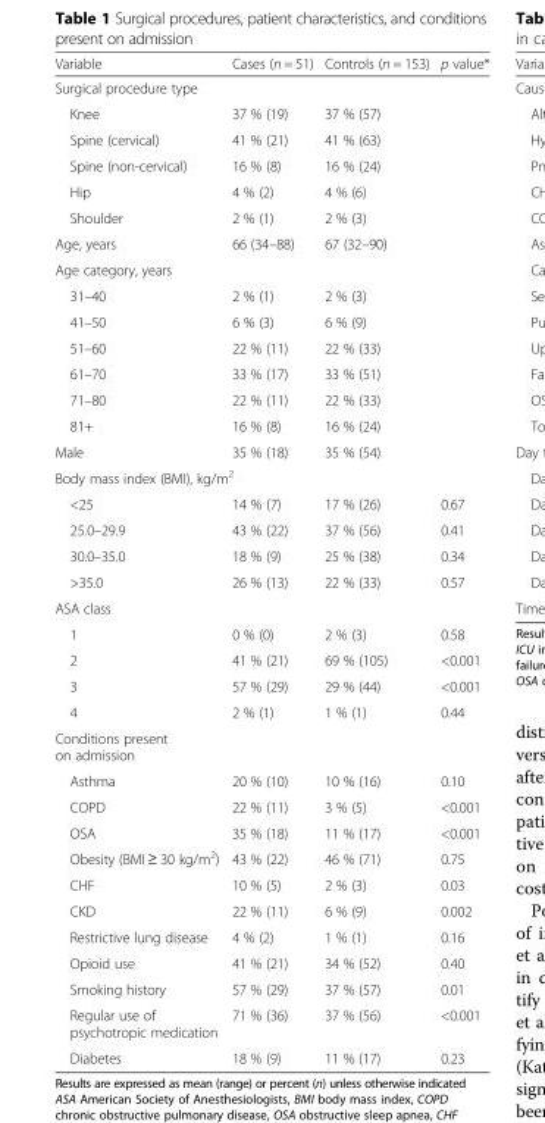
<table><thead><tr><td>Variable</td><td>Cases (n = 51)</td><td>Controls (n = 153)</td><td>p value*</td></tr></thead><tbody><tr><td colspan="4">Surgical procedure type</td></tr><tr><td>Knee</td><td>37 % (19)</td><td>37 % (57)</td><td></td></tr><tr><td>Spine (cervical)</td><td>41 % (21)</td><td>41 % (63)</td><td></td></tr><tr><td>Spine (non-cervical)</td><td>16 % (8)</td><td>16 % (24)</td><td></td></tr><tr><td>Hip</td><td>4 % (2)</td><td>4 % (6)</td><td></td></tr><tr><td>Shoulder</td><td>2 % (1)</td><td>2 % (3)</td><td></td></tr><tr><td>Age, years</td><td>66 (34–88)</td><td>67 (32–90)</td><td></td></tr><tr><td colspan="4">Age category, years</td></tr><tr><td>31–40</td><td>2 % (1)</td><td>2 % (3)</td><td></td></tr><tr><td>41–50</td><td>6 % (3)</td><td>6 % (9)</td><td></td></tr><tr><td>51–60</td><td>22 % (11)</td><td>22 % (33)</td><td></td></tr><tr><td>61–70</td><td>33 % (17)</td><td>33 % (51)</td><td></td></tr><tr><td>71–80</td><td>22 % (11)</td><td>22 % (33)</td><td></td></tr><tr><td>81+</td><td>16 % (8)</td><td>16 % (24)</td><td></td></tr><tr><td>Male</td><td>35 % (18)</td><td>35 % (54)</td><td></td></tr><tr><td colspan="4">Body mass index (BMI), kg/m<sup>2</sup></td></tr><tr><td>&lt;25</td><td>14 % (7)</td><td>17 % (26)</td><td>0.67</td></tr><tr><td>25.0–29.9</td><td>43 % (22)</td><td>37 % (56)</td><td>0.41</td></tr><tr><td>30.0–35.0</td><td>18 % (9)</td><td>25 % (38)</td><td>0.34</td></tr><tr><td>&gt;35.0</td><td>26 % (13)</td><td>22 % (33)</td><td>0.57</td></tr><tr><td colspan="4">ASA class</td></tr><tr><td>1</td><td>0 % (0)</td><td>2 % (3)</td><td>0.58</td></tr><tr><td>2</td><td>41 % (21)</td><td>69 % (105)</td><td>&lt;0.001</td></tr><tr><td>3</td><td>57 % (29)</td><td>29 % (44)</td><td>&lt;0.001</td></tr><tr><td>4</td><td>2 % (1)</td><td>1 % (1)</td><td>0.44</td></tr><tr><td colspan="4">Conditions present on admission</td></tr><tr><td>Asthma</td><td>20 % (10)</td><td>10 % (16)</td><td>0.10</td></tr><tr><td>COPD</td><td>22 % (11)</td><td>3 % (5)</td><td>&lt;0.001</td></tr><tr><td>OSA</td><td>35 % (18)</td><td>11 % (17)</td><td>&lt;0.001</td></tr><tr><td>Obesity (BMI ≥ 30 kg/m<sup>2</sup>)</td><td>43 % (22)</td><td>46 % (71)</td><td>0.75</td></tr><tr><td>CHF</td><td>10 % (5)</td><td>2 % (3)</td><td>0.03</td></tr><tr><td>CKD</td><td>22 % (11)</td><td>6 % (9)</td><td>0.002</td></tr><tr><td>Restrictive lung disease</td><td>4 % (2)</td><td>1 % (1)</td><td>0.16</td></tr><tr><td>Opioid use</td><td>41 % (21)</td><td>34 % (52)</td><td>0.40</td></tr><tr><td>Smoking history</td><td>57 % (29)</td><td>37 % (57)</td><td>0.01</td></tr><tr><td>Regular use of psychotropic medication</td><td>71 % (36)</td><td>37 % (56)</td><td>&lt;0.001</td></tr><tr><td>Diabetes</td><td>18 % (9)</td><td>11 % (17)</td><td>0.23</td></tr></tbody></table>